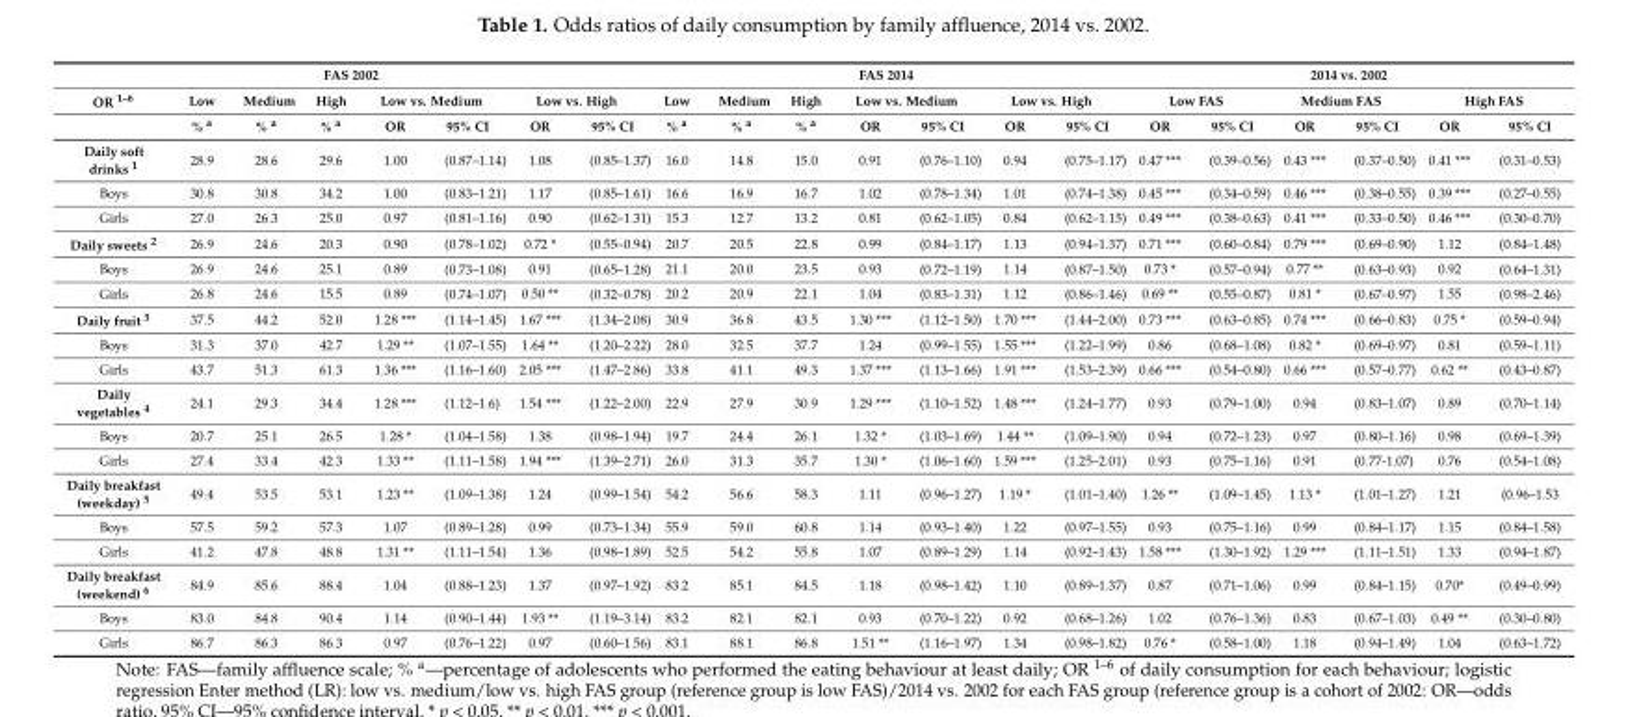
<table><thead><tr><td colspan="8">FAS 2002</td><td colspan="7">FAS 2014</td><td colspan="6">2014 vs. 2002</td></tr><tr><td rowspan="2">OR <sup>1–6</sup></td><td rowspan="2">Low % <sup>a</sup></td><td rowspan="2">Medium % <sup>a</sup></td><td rowspan="2">High % <sup>a</sup></td><td colspan="2">Low vs. Medium</td><td colspan="2">Low vs. High</td><td rowspan="2">Low % <sup>a</sup></td><td rowspan="2">Medium % <sup>a</sup></td><td rowspan="2">High % <sup>a</sup></td><td colspan="2">Low vs. Medium</td><td colspan="2">Low vs. High</td><td colspan="2">Low FAS</td><td colspan="2">Medium FAS</td><td colspan="2">High FAS</td></tr><tr><td>OR</td><td>95% CI</td><td>OR</td><td>95% CI</td><td>OR</td><td>95% CI</td><td>OR</td><td>95% CI</td><td>OR</td><td>95% CI</td><td>OR</td><td>95% CI</td><td>OR</td><td>95% CI</td></tr></thead><tbody><tr><td>Daily soft drinks <sup>1</sup></td><td>28.9</td><td>28.6</td><td>29.6</td><td>1.00</td><td>(0.87–1.14)</td><td>1.08</td><td>(0.85–1.37)</td><td>16.0</td><td>14.8</td><td>15.0</td><td>0.91</td><td>(0.76–1.10)</td><td>0.94</td><td>(0.75–1.17)</td><td>0.47 ***</td><td>(0.39–0.56)</td><td>0.43 ***</td><td>(0.37–0.50)</td><td>0.41 ***</td><td>(0.31–0.53)</td></tr><tr><td>Boys</td><td>30.8</td><td>30.8</td><td>34.2</td><td>1.00</td><td>(0.83–1.21)</td><td>1.17</td><td>(0.85–1.61)</td><td>16.6</td><td>16.9</td><td>16.7</td><td>1.02</td><td>(0.78–1.34)</td><td>1.01</td><td>(0.74–1.38)</td><td>0.45 ***</td><td>(0.34–0.59)</td><td>0.46 ***</td><td>(0.38–0.55)</td><td>0.39 ***</td><td>(0.27–0.55)</td></tr><tr><td>Girls</td><td>27.0</td><td>26.3</td><td>25.0</td><td>0.97</td><td>(0.81–1.16)</td><td>0.90</td><td>(0.62–1.31)</td><td>15.3</td><td>12.7</td><td>13.2</td><td>0.81</td><td>(0.62–1.05)</td><td>0.84</td><td>(0.62–1.15)</td><td>0.49 ***</td><td>(0.38–0.63)</td><td>0.41 ***</td><td>(0.33–0.50)</td><td>0.46 ***</td><td>(0.30–0.70)</td></tr><tr><td>Daily sweets <sup>2</sup></td><td>26.9</td><td>24.6</td><td>20.3</td><td>0.90</td><td>(0.78–1.02)</td><td>0.72 *</td><td>(0.55–0.94)</td><td>20.7</td><td>20.5</td><td>22.8</td><td>0.99</td><td>(0.84–1.17)</td><td>1.13</td><td>(0.94–1.37)</td><td>0.71 ***</td><td>(0.60–0.84)</td><td>0.79 ***</td><td>(0.69–0.90)</td><td>1.12</td><td>(0.84–1.48)</td></tr><tr><td>Boys</td><td>26.9</td><td>24.6</td><td>25.1</td><td>0.89</td><td>(0.73–1.08)</td><td>0.91</td><td>(0.65–1.28)</td><td>21.1</td><td>20.0</td><td>23.5</td><td>0.93</td><td>(0.72–1.19)</td><td>1.14</td><td>(0.87–1.50)</td><td>0.73 *</td><td>(0.57–0.94)</td><td>0.77 **</td><td>(0.63–0.93)</td><td>0.92</td><td>(0.64–1.31)</td></tr><tr><td>Girls</td><td>26.8</td><td>24.6</td><td>15.5</td><td>0.89</td><td>(0.74–1.07)</td><td>0.50 **</td><td>(0.32–0.78)</td><td>20.2</td><td>20.9</td><td>22.1</td><td>1.04</td><td>(0.83–1.31)</td><td>1.12</td><td>(0.86–1.46)</td><td>0.69 **</td><td>(0.55–0.87)</td><td>0.81 *</td><td>(0.67–0.97)</td><td>1.55</td><td>(0.98–2.46)</td></tr><tr><td>Daily fruit <sup>3</sup></td><td>37.5</td><td>44.2</td><td>52.0</td><td>1.28 ***</td><td>(1.14–1.45)</td><td>1.67 ***</td><td>(1.34–2.08)</td><td>30.9</td><td>36.8</td><td>43.5</td><td>1.30 ***</td><td>(1.12–1.50)</td><td>1.70 ***</td><td>(1.44–2.00)</td><td>0.73 ***</td><td>(0.63–0.85)</td><td>0.74 ***</td><td>(0.66–0.83)</td><td>0.75 *</td><td>(0.59–0.94)</td></tr><tr><td>Boys</td><td>31.3</td><td>37.0</td><td>42.7</td><td>1.29 **</td><td>(1.07–1.55)</td><td>1.64 **</td><td>(1.20–2.22)</td><td>28.0</td><td>32.5</td><td>37.7</td><td>1.24</td><td>(0.99–1.55)</td><td>1.55 ***</td><td>(1.22–1.99)</td><td>0.86</td><td>(0.68–1.08)</td><td>0.82 *</td><td>(0.69–0.97)</td><td>0.81</td><td>(0.59–1.11)</td></tr><tr><td>Girls</td><td>43.7</td><td>51.3</td><td>61.3</td><td>1.36 ***</td><td>(1.16–1.60)</td><td>2.05 ***</td><td>(1.47–2.86)</td><td>33.8</td><td>41.1</td><td>49.3</td><td>1.37 ***</td><td>(1.13–1.66)</td><td>1.91 ***</td><td>(1.53–2.39)</td><td>0.66 ***</td><td>(0.54–0.80)</td><td>0.66 ***</td><td>(0.57–0.77)</td><td>0.62 **</td><td>(0.43–0.87)</td></tr><tr><td>Daily vegetables <sup>4</sup></td><td>24.1</td><td>29.3</td><td>34.4</td><td>1.28 ***</td><td>(1.12–1.6)</td><td>1.54 ***</td><td>(1.22–2.00)</td><td>22.9</td><td>27.9</td><td>30.9</td><td>1.29 ***</td><td>(1.10–1.52)</td><td>1.48 ***</td><td>(1.24–1.77)</td><td>0.93</td><td>(0.79–1.00)</td><td>0.94</td><td>(0.83–1.07)</td><td>0.89</td><td>(0.70–1.14)</td></tr><tr><td>Boys</td><td>20.7</td><td>25.1</td><td>26.5</td><td>1.28 *</td><td>(1.04–1.58)</td><td>1.38</td><td>(0.98–1.94)</td><td>19.7</td><td>24.4</td><td>26.1</td><td>1.32 *</td><td>(1.03–1.69)</td><td>1.44 **</td><td>(1.09–1.90)</td><td>0.94</td><td>(0.72–1.23)</td><td>0.97</td><td>(0.80–1.16)</td><td>0.98</td><td>(0.69–1.39)</td></tr><tr><td>Girls</td><td>27.4</td><td>33.4</td><td>42.3</td><td>1.33 **</td><td>(1.11–1.58)</td><td>1.94 ***</td><td>(1.39–2.71)</td><td>26.0</td><td>31.3</td><td>35.7</td><td>1.30 *</td><td>(1.06–1.60)</td><td>1.59 ***</td><td>(1.25–2.01)</td><td>0.93</td><td>(0.75–1.16)</td><td>0.91</td><td>(0.77-1.07)</td><td>0.76</td><td>(0.54–1.08)</td></tr><tr><td>Daily breakfast (weekday) <sup>5</sup></td><td>49.4</td><td>53.5</td><td>53.1</td><td>1.23 **</td><td>(1.09–1.38)</td><td>1.24</td><td>(0.99–1.54)</td><td>54.2</td><td>56.6</td><td>58.3</td><td>1.11</td><td>(0.96–1.27)</td><td>1.19 *</td><td>(1.01–1.40)</td><td>1.26 **</td><td>(1.09–1.45)</td><td>1.13 *</td><td>(1.01–1.27)</td><td>1.21</td><td>(0.96–1.53</td></tr><tr><td>Boys</td><td>57.5</td><td>59.2</td><td>57.3</td><td>1.07</td><td>(0.89–1.28)</td><td>0.99</td><td>(0.73–1.34)</td><td>55.9</td><td>59.0</td><td>60.8</td><td>1.14</td><td>(0.93–1.40)</td><td>1.22</td><td>(0.97–1.55)</td><td>0.93</td><td>(0.75–1.16)</td><td>0.99</td><td>(0.84–1.17)</td><td>1.15</td><td>(0.84–1.58)</td></tr><tr><td>Girls</td><td>41.2</td><td>47.8</td><td>48.8</td><td>1.31 **</td><td>(1.11–1.54)</td><td>1.36</td><td>(0.98–1.89)</td><td>52.5</td><td>54.2</td><td>55.8</td><td>1.07</td><td>(0.89–1.29)</td><td>1.14</td><td>(0.92–1.43)</td><td>1.58 ***</td><td>(1.30–1.92)</td><td>1.29 ***</td><td>(1.11–1.51)</td><td>1.33</td><td>(0.94–1.87)</td></tr><tr><td>Daily breakfast (weekend) <sup>6</sup></td><td>84.9</td><td>85.6</td><td>88.4</td><td>1.04</td><td>(0.88–1.23)</td><td>1.37</td><td>(0.97–1.92)</td><td>83.2</td><td>85.1</td><td>84.5</td><td>1.18</td><td>(0.98–1.42)</td><td>1.10</td><td>(0.89–1.37)</td><td>0.87</td><td>(0.71–1.06)</td><td>0.99</td><td>(0.84–1.15)</td><td>0.70*</td><td>(0.49–0.99)</td></tr><tr><td>Boys</td><td>83.0</td><td>84.8</td><td>90.4</td><td>1.14</td><td>(0.90–1.44)</td><td>1.93 **</td><td>(1.19–3.14)</td><td>83.2</td><td>82.1</td><td>82.1</td><td>0.93</td><td>(0.70–1.22)</td><td>0.92</td><td>(0.68–1.26)</td><td>1.02</td><td>(0.76–1.36)</td><td>0.83</td><td>(0.67–1.03)</td><td>0.49 **</td><td>(0.30–0.80)</td></tr><tr><td>Girls</td><td>86.7</td><td>86.3</td><td>86.3</td><td>0.97</td><td>(0.76–1.22)</td><td>0.97</td><td>(0.60–1.56)</td><td>83.1</td><td>88.1</td><td>86.8</td><td>1.51 **</td><td>(1.16–1.97)</td><td>1.34</td><td>(0.98–1.82)</td><td>0.76 *</td><td>(0.58–1.00)</td><td>1.18</td><td>(0.94–1.49)</td><td>1.04</td><td>(0.63–1.72)</td></tr></tbody></table>